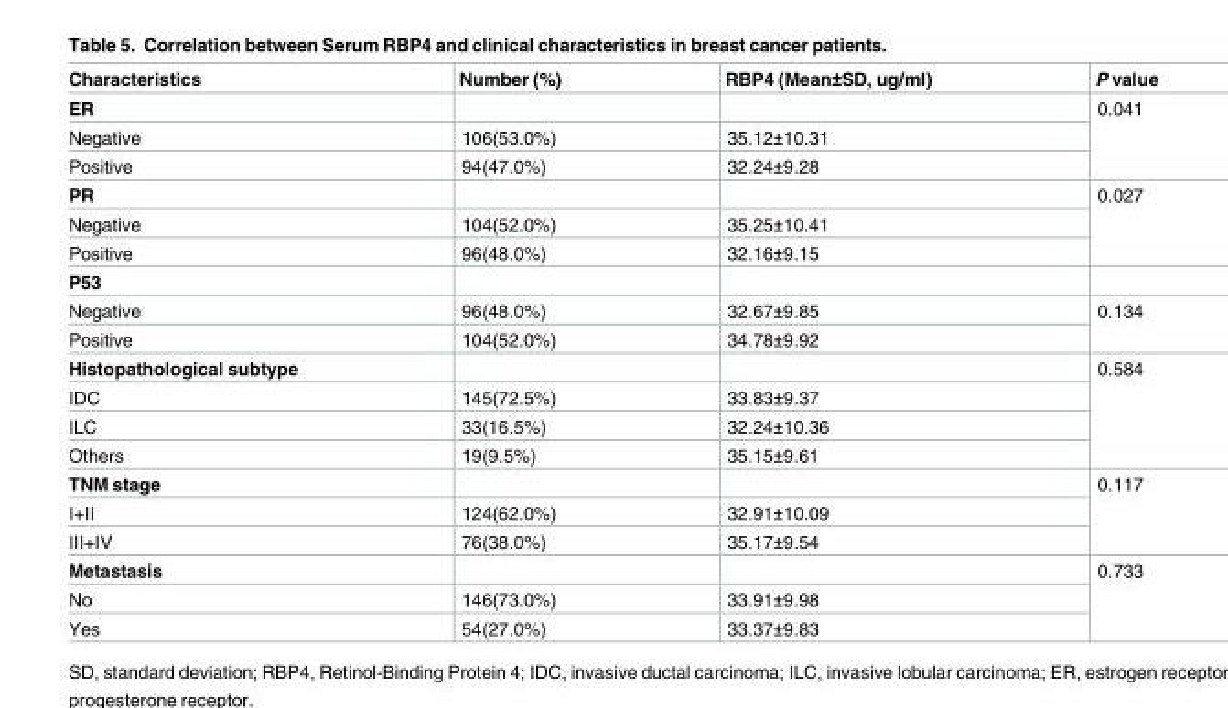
<table><thead><tr><td>Characteristics</td><td>Number (%)</td><td>RBP4 (Mean±SD, ug/ml)</td><td>P value</td></tr></thead><tbody><tr><td colspan="3">ER</td><td rowspan="3">0.041</td></tr><tr><td>Negative</td><td>106(53.0%)</td><td>35.12±10.31</td></tr><tr><td>Positive</td><td>94(47.0%)</td><td>32.24±9.28</td></tr><tr><td colspan="3">PR</td><td rowspan="3">0.027</td></tr><tr><td>Negative</td><td>104(52.0%)</td><td>35.25±10.41</td></tr><tr><td>Positive</td><td>96(48.0%)</td><td>32.16±9.15</td></tr><tr><td colspan="4">P53</td></tr><tr><td>Negative</td><td>96(48.0%)</td><td>32.67±9.85</td><td rowspan="2">0.134</td></tr><tr><td>Positive</td><td>104(52.0%)</td><td>34.78±9.92</td></tr><tr><td colspan="3">Histopathological subtype</td><td rowspan="4">0.584</td></tr><tr><td>IDC</td><td>145(72.5%)</td><td>33.83±9.37</td></tr><tr><td>ILC</td><td>33(16.5%)</td><td>32.24±10.36</td></tr><tr><td>Others</td><td>19(9.5%)</td><td>35.15±9.61</td></tr><tr><td colspan="3">TNM stage</td><td rowspan="3">0.117</td></tr><tr><td>I+II</td><td>124(62.0%)</td><td>32.91±10.09</td></tr><tr><td>III+IV</td><td>76(38.0%)</td><td>35.17±9.54</td></tr><tr><td colspan="3">Metastasis</td><td rowspan="3">0.733</td></tr><tr><td>No</td><td>146(73.0%)</td><td>33.91±9.98</td></tr><tr><td>Yes</td><td>54(27.0%)</td><td>33.37±9.83</td></tr></tbody></table>